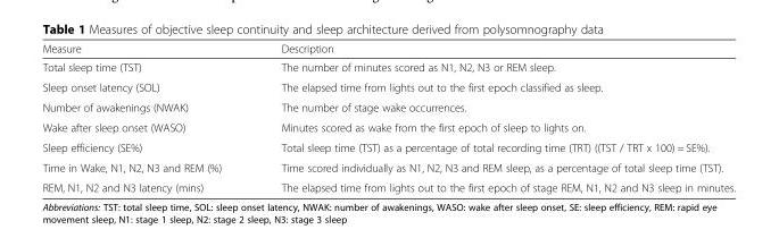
<table><thead><tr><td>Measure</td><td>Description</td></tr></thead><tbody><tr><td>Total sleep time (TST)</td><td>The number of minutes scored as N1, N2, N3 or REM sleep.</td></tr><tr><td>Sleep onset latency (SOL)</td><td>The elapsed time from lights out to the first epoch classified as sleep.</td></tr><tr><td>Number of awakenings (NWAK)</td><td>The number of stage wake occurrences.</td></tr><tr><td>Wake after sleep onset (WASO)</td><td>Minutes scored as wake from the first epoch of sleep to lights on.</td></tr><tr><td>Sleep efficiency (SE%)</td><td>Total sleep time (TST) as a percentage of total recording time (TRT) ((TST / TRT x 100) = SE%).</td></tr><tr><td>Time in Wake, N1, N2, N3 and REM (%)</td><td>Time scored individually as N1, N2, N3 and REM sleep, as a percentage of total sleep time (TST).</td></tr><tr><td>REM, N1, N2 and N3 latency (mins)</td><td>The elapsed time from lights out to the first epoch of stage REM, N1, N2 and N3 sleep in minutes.</td></tr></tbody></table>